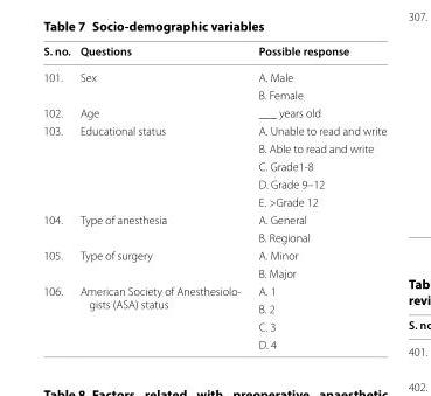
<table><thead><tr><td>S. no.</td><td>Questions</td><td>Possible response</td></tr></thead><tbody><tr><td rowspan="2">101.</td><td rowspan="2">Sex</td><td>A. Male</td></tr><tr><td>B. Female</td></tr><tr><td>102.</td><td>Age</td><td>___ years old</td></tr><tr><td rowspan="5">103.</td><td rowspan="5">Educational status</td><td>A. Unable to read and write</td></tr><tr><td>B. Able to read and write</td></tr><tr><td>C. Grade1-8</td></tr><tr><td>D. Grade 9–12</td></tr><tr><td>E. &gt;Grade 12</td></tr><tr><td rowspan="2">104.</td><td rowspan="2">Type of anesthesia</td><td>A. General</td></tr><tr><td>B. Regional</td></tr><tr><td rowspan="2">105.</td><td rowspan="2">Type of surgery</td><td>A. Minor</td></tr><tr><td>B. Major</td></tr><tr><td rowspan="4">106.</td><td rowspan="4">American Society of Anesthesiolo- gists (ASA) status</td><td>A. 1</td></tr><tr><td>B. 2</td></tr><tr><td>C. 3</td></tr><tr><td>D. 4</td></tr></tbody></table>